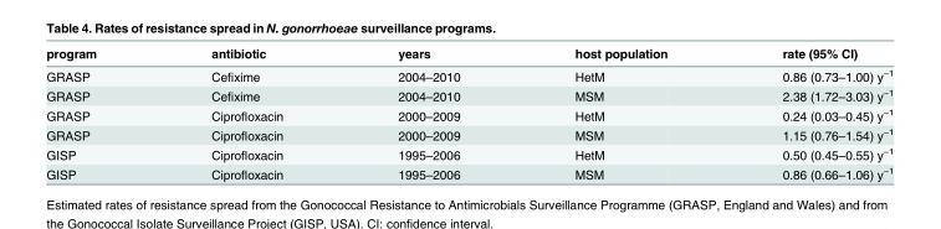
<table><thead><tr><td>program</td><td>antibiotic</td><td>years</td><td>host population</td><td>rate (95% CI)</td></tr></thead><tbody><tr><td>GRASP</td><td>Cefixime</td><td>2004–2010</td><td>HetM</td><td>0.86 (0.73–1.00) y<sup>−1</sup></td></tr><tr><td>GRASP</td><td>Cefixime</td><td>2004–2010</td><td>MSM</td><td>2.38 (1.72–3.03) y<sup>−1</sup></td></tr><tr><td>GRASP</td><td>Ciprofloxacin</td><td>2000–2009</td><td>HetM</td><td>0.24 (0.03–0.45) y<sup>−1</sup></td></tr><tr><td>GRASP</td><td>Ciprofloxacin</td><td>2000–2009</td><td>MSM</td><td>1.15 (0.76–1.54) y<sup>−1</sup></td></tr><tr><td>GISP</td><td>Ciprofloxacin</td><td>1995–2006</td><td>HetM</td><td>0.50 (0.45–0.55) y<sup>−1</sup></td></tr><tr><td>GISP</td><td>Ciprofloxacin</td><td>1995–2006</td><td>MSM</td><td>0.86 (0.66–1.06) y<sup>−1</sup></td></tr></tbody></table>